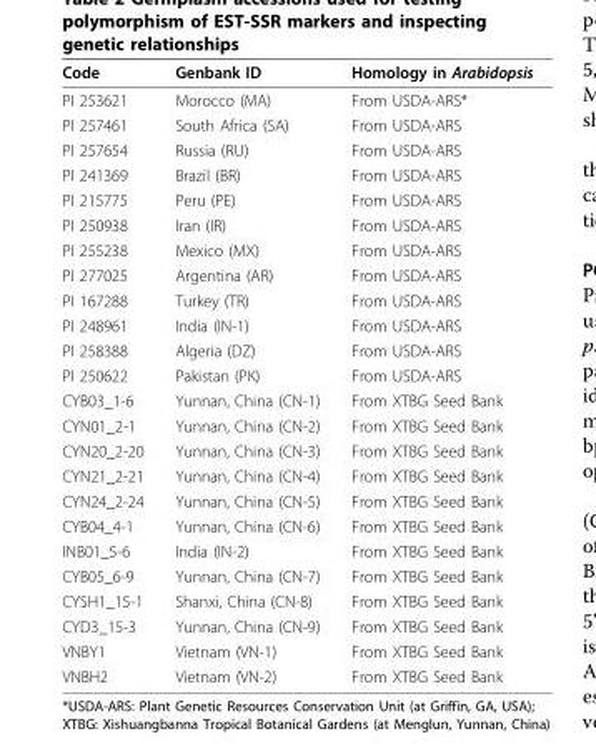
<table><thead><tr><td>Code</td><td>Genbank ID</td><td>Homology in Arabidopsis</td></tr></thead><tbody><tr><td>PI 253621</td><td>Morocco (MA)</td><td>From USDA-ARS*</td></tr><tr><td>PI 257461</td><td>South Africa (SA)</td><td>From USDA-ARS</td></tr><tr><td>PI 257654</td><td>Russia (RU)</td><td>From USDA-ARS</td></tr><tr><td>PI 241369</td><td>Brazil (BR)</td><td>From USDA-ARS</td></tr><tr><td>PI 215775</td><td>Peru (PE)</td><td>From USDA-ARS</td></tr><tr><td>PI 250938</td><td>Iran (IR)</td><td>From USDA-ARS</td></tr><tr><td>PI 255238</td><td>Mexico (MX)</td><td>From USDA-ARS</td></tr><tr><td>PI 277025</td><td>Argentina (AR)</td><td>From USDA-ARS</td></tr><tr><td>PI 167288</td><td>Turkey (TR)</td><td>From USDA-ARS</td></tr><tr><td>PI 248961</td><td>India (IN-1)</td><td>From USDA-ARS</td></tr><tr><td>PI 258388</td><td>Algeria (DZ)</td><td>From USDA-ARS</td></tr><tr><td>PI 250622</td><td>Pakistan (PK)</td><td>From USDA-ARS</td></tr><tr><td>CYB03_1-6</td><td>Yunnan, China (CN-1)</td><td>From XTBG Seed Bank</td></tr><tr><td>CYN01_2-1</td><td>Yunnan, China (CN-2)</td><td>From XTBG Seed Bank</td></tr><tr><td>CYN20_2-20</td><td>Yunnan, China (CN-3)</td><td>From XTBG Seed Bank</td></tr><tr><td>CYN21_2-21</td><td>Yunnan, China (CN-4)</td><td>From XTBG Seed Bank</td></tr><tr><td>CYN24_2-24</td><td>Yunnan, China (CN-5)</td><td>From XTBG Seed Bank</td></tr><tr><td>CYB04_4-1</td><td>Yunnan, China (CN-6)</td><td>From XTBG Seed Bank</td></tr><tr><td>INB01_5-6</td><td>India (IN-2)</td><td>From XTBG Seed Bank</td></tr><tr><td>CYB05_6-9</td><td>Yunnan, China (CN-7)</td><td>From XTBG Seed Bank</td></tr><tr><td>CYSH1_15-1</td><td>Shanxi, China (CN-8)</td><td>From XTBG Seed Bank</td></tr><tr><td>CYD3_15-3</td><td>Yunnan, China (CN-9)</td><td>From XTBG Seed Bank</td></tr><tr><td>VNBY1</td><td>Vietnam (VN-1)</td><td>From XTBG Seed Bank</td></tr><tr><td>VNBH2</td><td>Vietnam (VN-2)</td><td>From XTBG Seed Bank</td></tr></tbody></table>